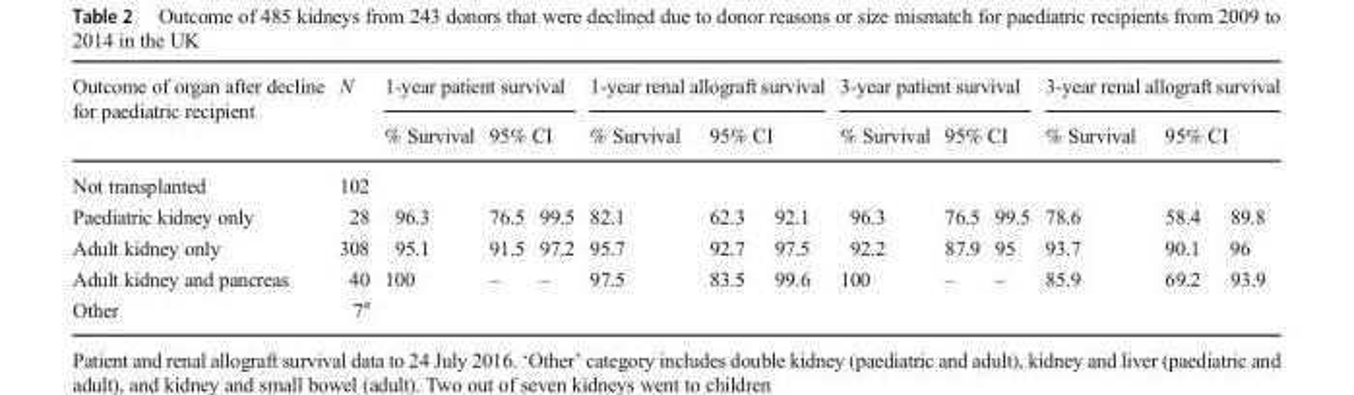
<table><thead><tr><td rowspan="3">Outcome of organ after decline for paediatric recipient Not transplanted</td><td rowspan="3">N 102</td><td colspan="3">1-year patient survival</td><td colspan="3">1-year renal allograft survival</td><td colspan="3">3-year patient survival</td><td colspan="3">3-year renal allograft survival</td></tr><tr><td rowspan="2">% Survival</td><td colspan="2">95% CI</td><td rowspan="2">% Survival</td><td colspan="2">95% CI</td><td rowspan="2">% Survival</td><td colspan="2">95% CI</td><td rowspan="2">% Survival</td><td colspan="2">95% CI</td></tr><tr><td></td><td></td><td></td><td></td><td></td><td></td><td></td><td></td></tr></thead><tbody><tr><td>Paediatric kidney only</td><td>28</td><td>96.3</td><td>76.5</td><td>99.5</td><td>82.1</td><td>62.3</td><td>92.1</td><td>96.3</td><td>76.5</td><td>99.5</td><td>78.6</td><td>58.4</td><td>89.8</td></tr><tr><td>Adult kidney only</td><td>308</td><td>95.1</td><td>91.5</td><td>97.2</td><td>95.7</td><td>92.7</td><td>97.5</td><td>92.2</td><td>87.9</td><td>95</td><td>93.7</td><td>90.1</td><td>96</td></tr><tr><td>Adult kidney and pancreas</td><td>40</td><td>100</td><td>–</td><td>–</td><td>97.5</td><td>83.5</td><td>99.6</td><td>100</td><td>–</td><td>–</td><td>85.9</td><td>69.2</td><td>93.9</td></tr><tr><td>Other</td><td>7<sup>a</sup></td><td></td><td></td><td></td><td></td><td></td><td></td><td></td><td></td><td></td><td></td><td></td><td></td></tr></tbody></table>